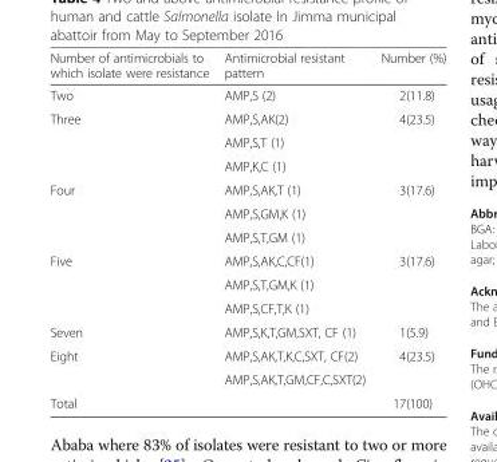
<table><thead><tr><td>Number of antimicrobials to which isolate were resistance</td><td>Antimicrobial resistant pattern</td><td>Number (%)</td></tr></thead><tbody><tr><td>Two</td><td>AMP,S (2)</td><td>2(11.8)</td></tr><tr><td rowspan="3">Three</td><td>AMP,S,AK(2)</td><td rowspan="3">4(23.5)</td></tr><tr><td>AMP,S,T (1)</td></tr><tr><td>AMP,K,C (1)</td></tr><tr><td rowspan="3">Four</td><td>AMP,S,AK,T (1)</td><td rowspan="3">3(17.6)</td></tr><tr><td>AMP,S,GM,K (1)</td></tr><tr><td>AMP,S,T,GM (1)</td></tr><tr><td rowspan="3">Five</td><td>AMP,S,AK,C,CF(1)</td><td rowspan="3">3(17.6)</td></tr><tr><td>AMP,S,T,GM,K (1)</td></tr><tr><td>AMP,S,CF,T,K (1)</td></tr><tr><td>Seven</td><td>AMP,S,K,T,GM,SXT, CF (1)</td><td>1(5.9)</td></tr><tr><td rowspan="2">Eight</td><td>AMP,S,AK,T,K,C,SXT, CF(2)</td><td rowspan="2">4(23.5)</td></tr><tr><td>AMP,S,AK,T,GM,CF,C,SXT(2)</td></tr><tr><td>Total</td><td></td><td>17(100)</td></tr></tbody></table>